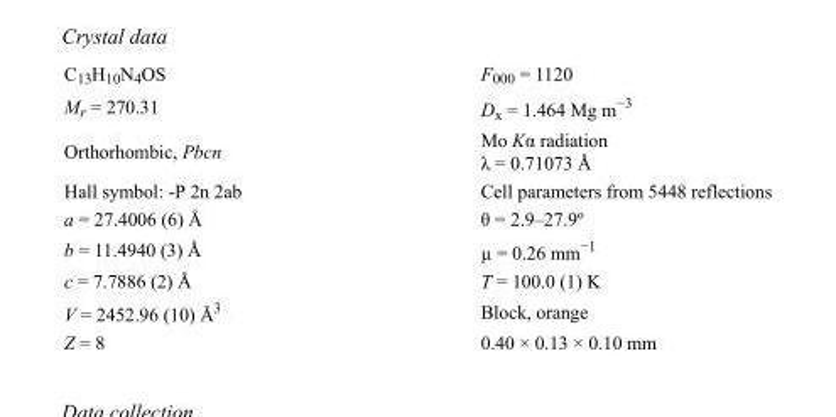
<table><tbody><tr><td>C<sub>13</sub>H<sub>10</sub>N<sub>4</sub>OS</td><td>F<sub>000</sub> = 1120</td></tr><tr><td>M<sub>r</sub> = 270.31</td><td>D<sub>x</sub> = 1.464 Mg m<sup>−3</sup></td></tr><tr><td>Orthorhombic, Pbcn</td><td>Mo Kα radiation λ = 0.71073 Å</td></tr><tr><td>Hall symbol: -P 2n 2ab</td><td>Cell parameters from 5448 reflections</td></tr><tr><td>a = 27.4006 (6) Å</td><td>θ = 2.9–27.9º</td></tr><tr><td>b = 11.4940 (3) Å</td><td>µ = 0.26 mm<sup>−1</sup></td></tr><tr><td>c = 7.7886 (2) Å</td><td>T = 100.0 (1) K</td></tr><tr><td>V = 2452.96 (10) Å<sup>3</sup></td><td>Block, orange</td></tr><tr><td>Z = 8</td><td>0.40 × 0.13 × 0.10 mm</td></tr></tbody></table>